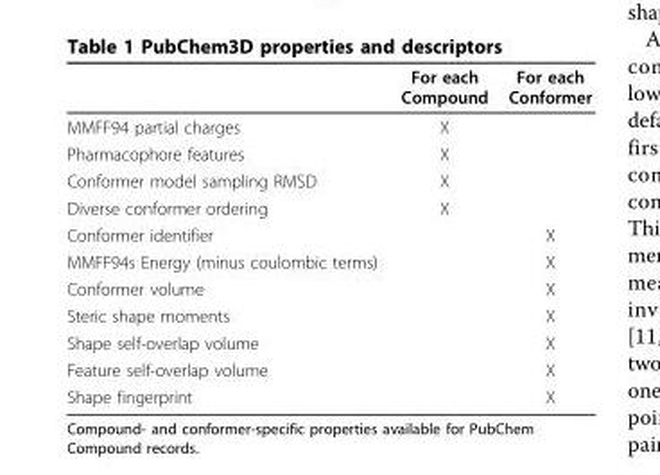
<table><thead><tr><td></td><td>For each Compound</td><td>For each Conformer</td></tr></thead><tbody><tr><td>MMFF94 partial charges</td><td>X</td><td></td></tr><tr><td>Pharmacophore features</td><td>X</td><td></td></tr><tr><td>Conformer model sampling RMSD</td><td>X</td><td></td></tr><tr><td>Diverse conformer ordering</td><td>X</td><td></td></tr><tr><td>Conformer identifier</td><td></td><td>X</td></tr><tr><td>MMFF94s Energy (minus coulombic terms)</td><td></td><td>X</td></tr><tr><td>Conformer volume</td><td></td><td>X</td></tr><tr><td>Steric shape moments</td><td></td><td>X</td></tr><tr><td>Shape self-overlap volume</td><td></td><td>X</td></tr><tr><td>Feature self-overlap volume</td><td></td><td>X</td></tr><tr><td>Shape fingerprint</td><td></td><td>X</td></tr></tbody></table>